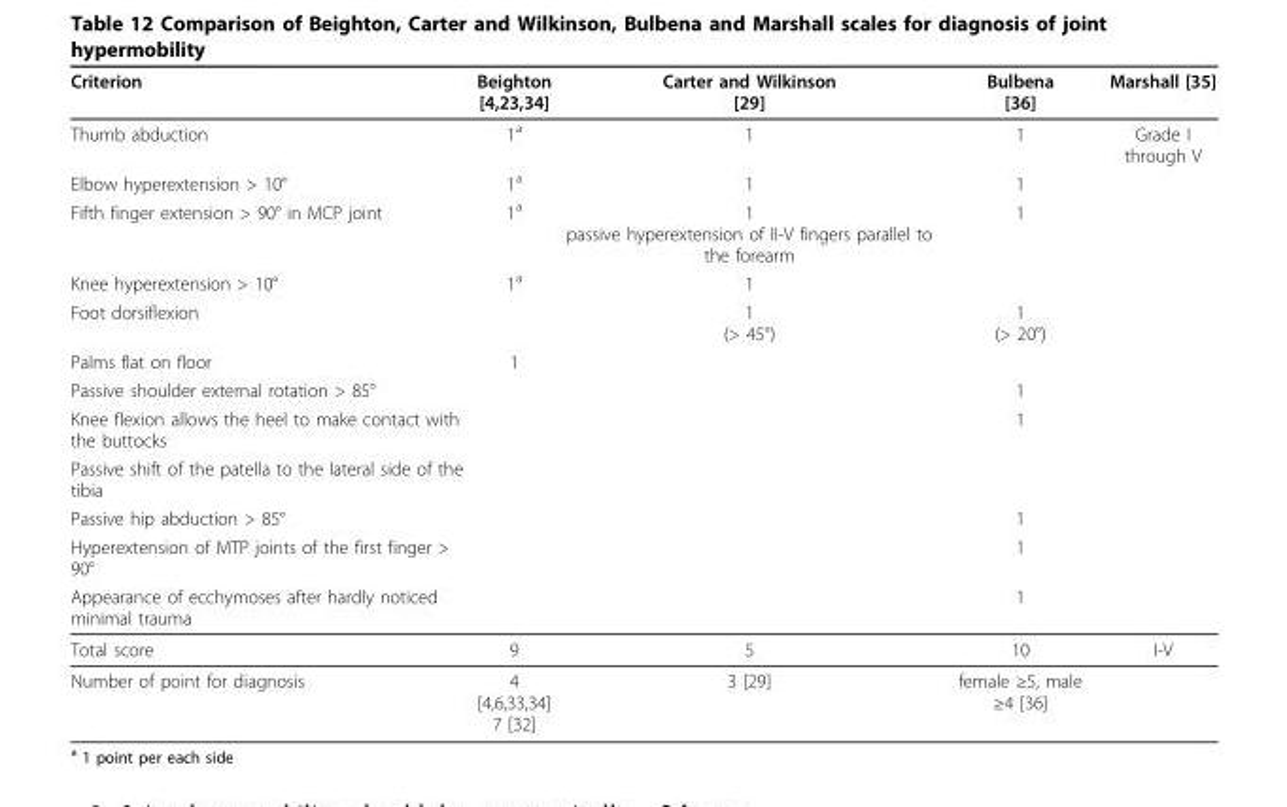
<table><thead><tr><td>Criterion</td><td>Beighton [4,23,34]</td><td>Carter and Wilkinson [29]</td><td>Bulbena [36]</td><td>Marshall [35]</td></tr></thead><tbody><tr><td>Thumb abduction</td><td>1<sup>a</sup></td><td>1</td><td>1</td><td>Grade I through V</td></tr><tr><td>Elbow hyperextension &gt; 10°</td><td>1<sup>a</sup></td><td>1</td><td>1</td><td></td></tr><tr><td>Fifth finger extension &gt; 90° in MCP joint</td><td>1<sup>a</sup></td><td>1 passive hyperextension of II-V fingers parallel to the forearm</td><td>1</td><td></td></tr><tr><td>Knee hyperextension &gt; 10°</td><td>1<sup>a</sup></td><td>1</td><td></td><td></td></tr><tr><td>Foot dorsiflexion</td><td></td><td>1 (&gt; 45°)</td><td>1 (&gt; 20°)</td><td></td></tr><tr><td>Palms flat on floor</td><td>1</td><td></td><td></td><td></td></tr><tr><td>Passive shoulder external rotation &gt; 85°</td><td></td><td></td><td>1</td><td></td></tr><tr><td>Knee flexion allows the heel to make contact with the buttocks</td><td></td><td></td><td>1</td><td></td></tr><tr><td colspan="5">Passive shift of the patella to the lateral side of the tibia</td></tr><tr><td>Passive hip abduction &gt; 85°</td><td></td><td></td><td>1</td><td></td></tr><tr><td>Hyperextension of MTP joints of the first finger &gt; 90°</td><td></td><td></td><td>1</td><td></td></tr><tr><td>Appearance of ecchymoses after hardly noticed minimal trauma</td><td></td><td></td><td>1</td><td></td></tr><tr><td>Total score</td><td>9</td><td>5</td><td>10</td><td>I-V</td></tr><tr><td>Number of point for diagnosis</td><td>4 [4,6,33,34] 7 [32]</td><td>3 [29]</td><td>female ≥5, male ≥4 [36]</td><td></td></tr></tbody></table>